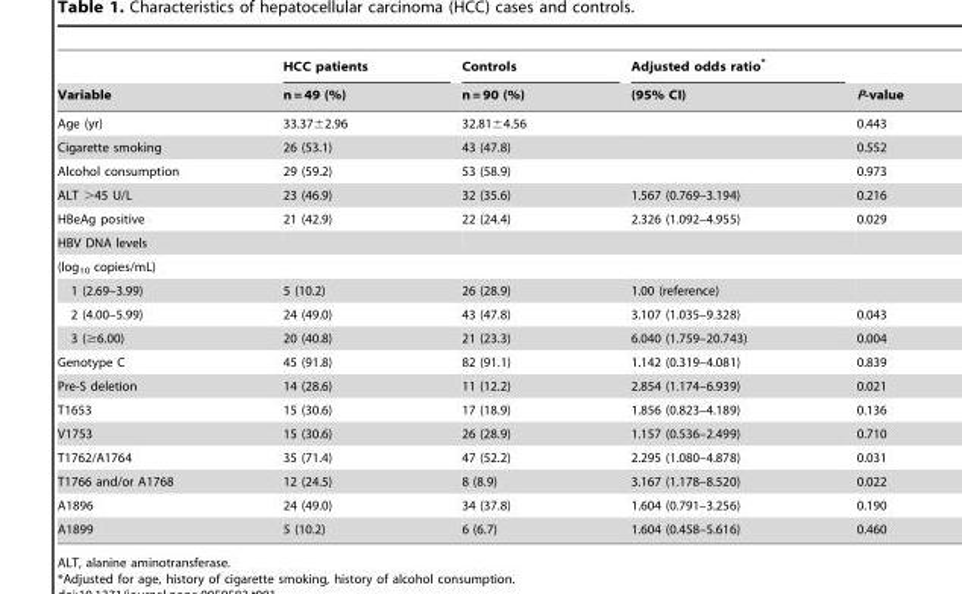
<table><thead><tr><td rowspan="2">Variable</td><td rowspan="2">HCC patients n = 49 (%)</td><td rowspan="2">Controls n = 90 (%)</td><td rowspan="2">Adjusted odds ratio* (95% CI)</td><td rowspan="2">P-value</td></tr><tr></tr></thead><tbody><tr><td>Age (yr)</td><td>33.37±2.96</td><td>32.81±4.56</td><td></td><td>0.443</td></tr><tr><td>Cigarette smoking</td><td>26 (53.1)</td><td>43 (47.8)</td><td></td><td>0.552</td></tr><tr><td>Alcohol consumption</td><td>29 (59.2)</td><td>53 (58.9)</td><td></td><td>0.973</td></tr><tr><td>ALT &gt;45 U/L</td><td>23 (46.9)</td><td>32 (35.6)</td><td>1.567 (0.769–3.194)</td><td>0.216</td></tr><tr><td>HBeAg positive</td><td>21 (42.9)</td><td>22 (24.4)</td><td>2.326 (1.092–4.955)</td><td>0.029</td></tr><tr><td colspan="5">HBV DNA levels</td></tr><tr><td colspan="5">(log<sub>10</sub> copies/mL)</td></tr><tr><td>1 (2.69–3.99)</td><td>5 (10.2)</td><td>26 (28.9)</td><td>1.00 (reference)</td><td></td></tr><tr><td>2 (4.00–5.99)</td><td>24 (49.0)</td><td>43 (47.8)</td><td>3.107 (1.035–9.328)</td><td>0.043</td></tr><tr><td>3 (≥6.00)</td><td>20 (40.8)</td><td>21 (23.3)</td><td>6.040 (1.759–20.743)</td><td>0.004</td></tr><tr><td>Genotype C</td><td>45 (91.8)</td><td>82 (91.1)</td><td>1.142 (0.319–4.081)</td><td>0.839</td></tr><tr><td>Pre-S deletion</td><td>14 (28.6)</td><td>11 (12.2)</td><td>2.854 (1.174–6.939)</td><td>0.021</td></tr><tr><td>T1653</td><td>15 (30.6)</td><td>17 (18.9)</td><td>1.856 (0.823–4.189)</td><td>0.136</td></tr><tr><td>V1753</td><td>15 (30.6)</td><td>26 (28.9)</td><td>1.157 (0.536–2.499)</td><td>0.710</td></tr><tr><td>T1762/A1764</td><td>35 (71.4)</td><td>47 (52.2)</td><td>2.295 (1.080–4.878)</td><td>0.031</td></tr><tr><td>T1766 and/or A1768</td><td>12 (24.5)</td><td>8 (8.9)</td><td>3.167 (1.178–8.520)</td><td>0.022</td></tr><tr><td>A1896</td><td>24 (49.0)</td><td>34 (37.8)</td><td>1.604 (0.791–3.256)</td><td>0.190</td></tr><tr><td>A1899</td><td>5 (10.2)</td><td>6 (6.7)</td><td>1.604 (0.458–5.616)</td><td>0.460</td></tr></tbody></table>